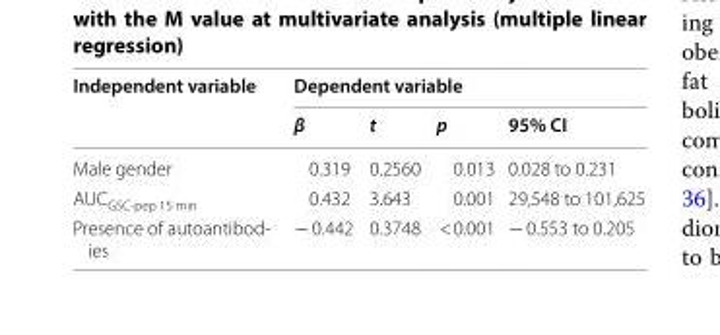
<table><thead><tr><td rowspan="2">Independent variable</td><td colspan="4">Dependent variable</td></tr><tr><td>β</td><td>t</td><td>p</td><td>95% CI</td></tr></thead><tbody><tr><td>Male gender</td><td>0.319</td><td>0.2560</td><td>0.013</td><td>0.028 to 0.231</td></tr><tr><td>AUC <sub>GSC-pep 15 min</sub></td><td>0.432</td><td>3.643</td><td>0.001</td><td>29,548 to 101,625</td></tr><tr><td>Presence of autoantibod- ies</td><td>− 0.442</td><td>0.3748</td><td>&lt; 0.001</td><td>− 0.553 to 0.205</td></tr></tbody></table>